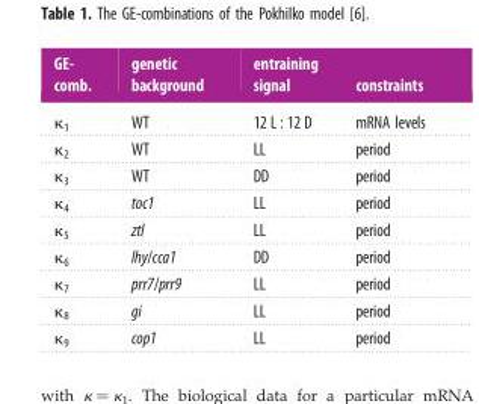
<table><thead><tr><td>GE- comb.</td><td>genetic background</td><td>entraining signal</td><td>constraints</td></tr></thead><tbody><tr><td>κ<sub>1</sub></td><td>WT</td><td>12 L : 12 D</td><td>mRNA levels</td></tr><tr><td>κ<sub>2</sub></td><td>WT</td><td>LL</td><td>period</td></tr><tr><td>κ<sub>3</sub></td><td>WT</td><td>DD</td><td>period</td></tr><tr><td>κ<sub>4</sub></td><td>toc1</td><td>LL</td><td>period</td></tr><tr><td>κ<sub>5</sub></td><td>ztl</td><td>LL</td><td>period</td></tr><tr><td>κ<sub>6</sub></td><td>lhy/cca1</td><td>DD</td><td>period</td></tr><tr><td>κ<sub>7</sub></td><td>prr7/prr9</td><td>LL</td><td>period</td></tr><tr><td>κ<sub>8</sub></td><td>gi</td><td>LL</td><td>period</td></tr><tr><td>κ<sub>9</sub></td><td>cop1</td><td>LL</td><td>period</td></tr></tbody></table>